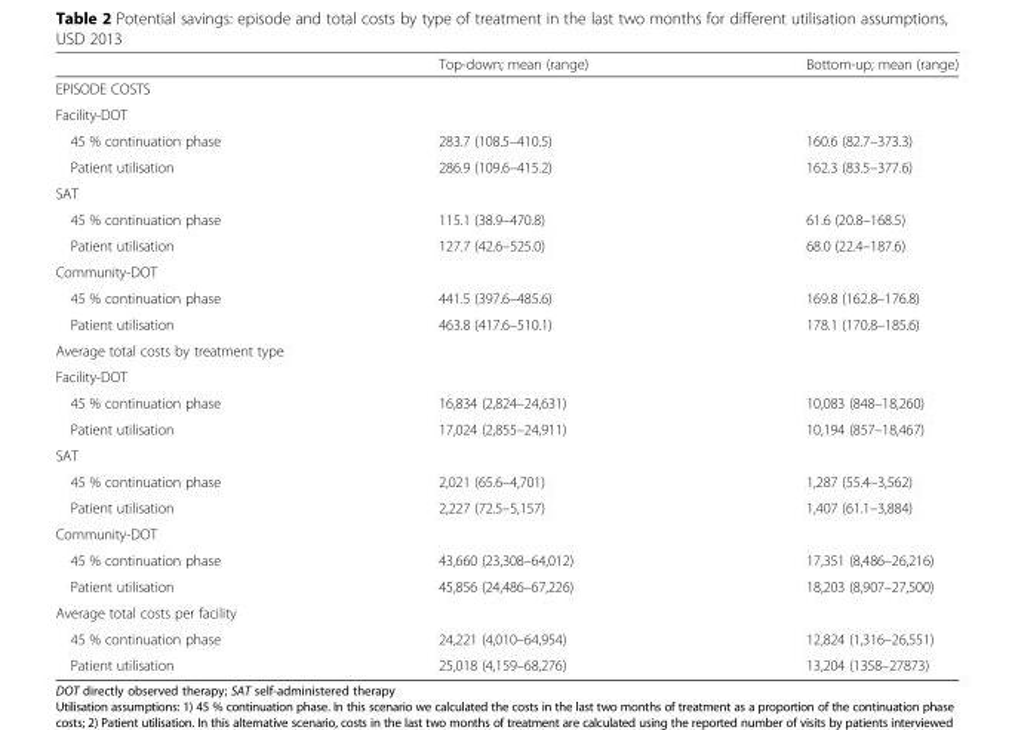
<table><thead><tr><td></td><td>Top-down; mean (range)</td><td>Bottom-up; mean (range)</td></tr></thead><tbody><tr><td colspan="3">EPISODE COSTS</td></tr><tr><td colspan="3">Facility-DOT</td></tr><tr><td>45 % continuation phase</td><td>283.7 (108.5–410.5)</td><td>160.6 (82.7–373.3)</td></tr><tr><td>Patient utilisation</td><td>286.9 (109.6–415.2)</td><td>162.3 (83.5–377.6)</td></tr><tr><td colspan="3">SAT</td></tr><tr><td>45 % continuation phase</td><td>115.1 (38.9–470.8)</td><td>61.6 (20.8–168.5)</td></tr><tr><td>Patient utilisation</td><td>127.7 (42.6–525.0)</td><td>68.0 (22.4–187.6)</td></tr><tr><td colspan="3">Community-DOT</td></tr><tr><td>45 % continuation phase</td><td>441.5 (397.6–485.6)</td><td>169.8 (162.8–176.8)</td></tr><tr><td>Patient utilisation</td><td>463.8 (417.6–510.1)</td><td>178.1 (170.8–185.6)</td></tr><tr><td colspan="3">Average total costs by treatment type</td></tr><tr><td colspan="3">Facility-DOT</td></tr><tr><td>45 % continuation phase</td><td>16,834 (2,824–24,631)</td><td>10,083 (848–18,260)</td></tr><tr><td>Patient utilisation</td><td>17,024 (2,855–24,911)</td><td>10,194 (857–18,467)</td></tr><tr><td colspan="3">SAT</td></tr><tr><td>45 % continuation phase</td><td>2,021 (65.6–4,701)</td><td>1,287 (55.4–3,562)</td></tr><tr><td>Patient utilisation</td><td>2,227 (72.5–5,157)</td><td>1,407 (61.1–3,884)</td></tr><tr><td colspan="3">Community-DOT</td></tr><tr><td>45 % continuation phase</td><td>43,660 (23,308–64,012)</td><td>17,351 (8,486–26,216)</td></tr><tr><td>Patient utilisation</td><td>45,856 (24,486–67,226)</td><td>18,203 (8,907–27,500)</td></tr><tr><td colspan="3">Average total costs per facility</td></tr><tr><td>45 % continuation phase</td><td>24,221 (4,010–64,954)</td><td>12,824 (1,316–26,551)</td></tr><tr><td>Patient utilisation</td><td>25,018 (4,159–68,276)</td><td>13,204 (1358–27873)</td></tr></tbody></table>